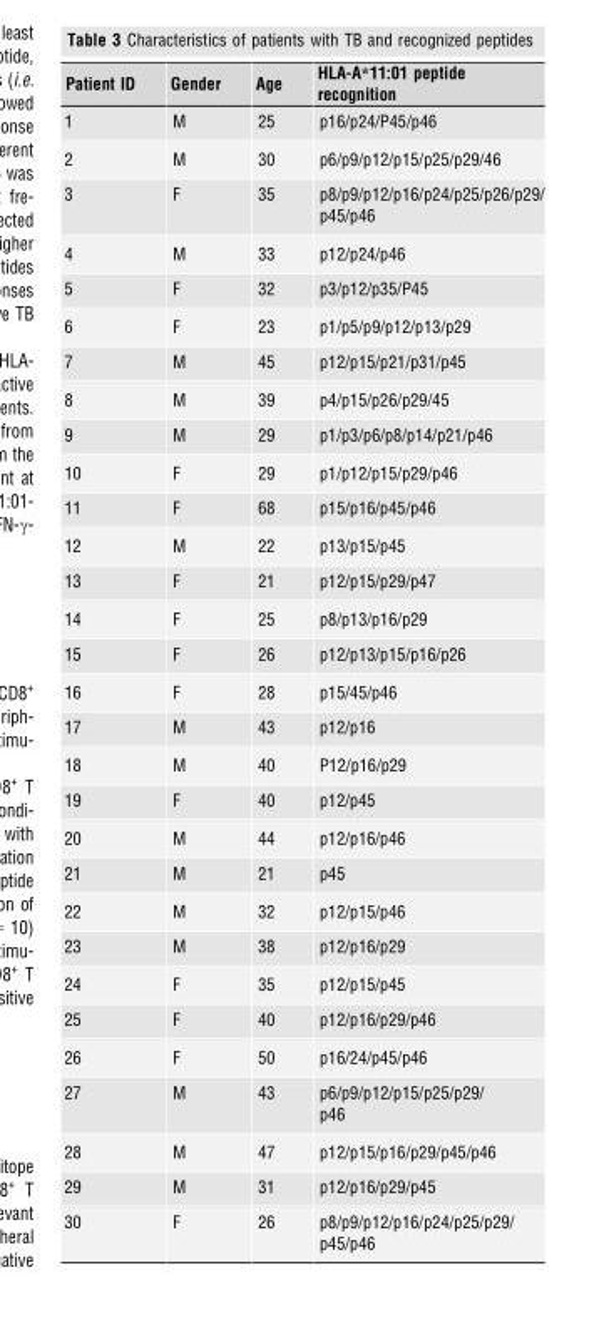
<table><thead><tr><td>Patient ID</td><td>Gender</td><td>Age</td><td>HLA-A*11:01 peptide recognition</td></tr></thead><tbody><tr><td>1</td><td>M</td><td>25</td><td>p16/p24/P45/p46</td></tr><tr><td>2</td><td>M</td><td>30</td><td>p6/p9/p12/p15/p25/p29/46</td></tr><tr><td>3</td><td>F</td><td>35</td><td>p8/p9/p12/p16/p24/p25/p26/p29/ p45/p46</td></tr><tr><td>4</td><td>M</td><td>33</td><td>p12/p24/p46</td></tr><tr><td>5</td><td>F</td><td>32</td><td>p3/p12/p35/P45</td></tr><tr><td>6</td><td>F</td><td>23</td><td>p1/p5/p9/p12/p13/p29</td></tr><tr><td>7</td><td>M</td><td>45</td><td>p12/p15/p21/p31/p45</td></tr><tr><td>8</td><td>M</td><td>39</td><td>p4/p15/p26/p29/45</td></tr><tr><td>9</td><td>M</td><td>29</td><td>p1/p3/p6/p8/p14/p21/p46</td></tr><tr><td>10</td><td>F</td><td>29</td><td>p1/p12/p15/p29/p46</td></tr><tr><td>11</td><td>F</td><td>68</td><td>p15/p16/p45/p46</td></tr><tr><td>12</td><td>M</td><td>22</td><td>p13/p15/p45</td></tr><tr><td>13</td><td>F</td><td>21</td><td>p12/p15/p29/p47</td></tr><tr><td>14</td><td>F</td><td>25</td><td>p8/p13/p16/p29</td></tr><tr><td>15</td><td>F</td><td>26</td><td>p12/p13/p15/p16/p26</td></tr><tr><td>16</td><td>F</td><td>28</td><td>p15/45/p46</td></tr><tr><td>17</td><td>M</td><td>43</td><td>p12/p16</td></tr><tr><td>18</td><td>M</td><td>40</td><td>P12/p16/p29</td></tr><tr><td>19</td><td>F</td><td>40</td><td>p12/p45</td></tr><tr><td>20</td><td>M</td><td>44</td><td>p12/p16/p46</td></tr><tr><td>21</td><td>M</td><td>21</td><td>p45</td></tr><tr><td>22</td><td>M</td><td>32</td><td>p12/p15/p46</td></tr><tr><td>23</td><td>M</td><td>38</td><td>p12/p16/p29</td></tr><tr><td>24</td><td>F</td><td>35</td><td>p12/p15/p45</td></tr><tr><td>25</td><td>F</td><td>40</td><td>p12/p16/p29/p46</td></tr><tr><td>26</td><td>F</td><td>50</td><td>p16/24/p45/p46</td></tr><tr><td>27</td><td>M</td><td>43</td><td>p6/p9/p12/p15/p25/p29/ p46</td></tr><tr><td>28</td><td>M</td><td>47</td><td>p12/p15/p16/p29/p45/p46</td></tr><tr><td>29</td><td>M</td><td>31</td><td>p12/p16/p29/p45</td></tr><tr><td>30</td><td>F</td><td>26</td><td>p8/p9/p12/p16/p24/p25/p29/ p45/p46</td></tr></tbody></table>